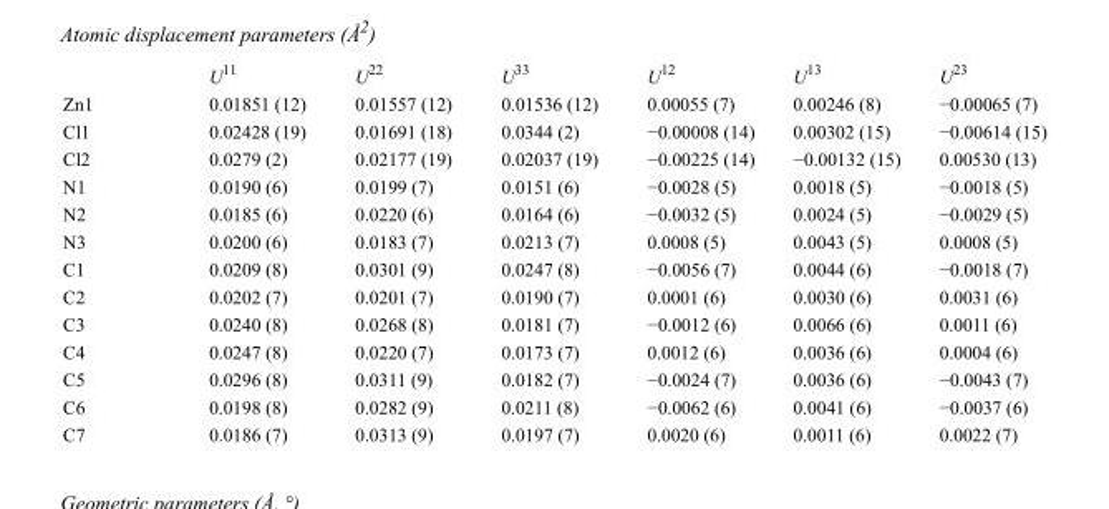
<table><thead><tr><td></td><td>U<sup>11</sup></td><td>U<sup>22</sup></td><td>U<sup>33</sup></td><td>U<sup>12</sup></td><td>U<sup>13</sup></td><td>U<sup>23</sup></td></tr></thead><tbody><tr><td>Zn1</td><td>0.01851 (12)</td><td>0.01557 (12)</td><td>0.01536 (12)</td><td>0.00055 (7)</td><td>0.00246 (8)</td><td>−0.00065 (7)</td></tr><tr><td>Cl1</td><td>0.02428 (19)</td><td>0.01691 (18)</td><td>0.0344 (2)</td><td>−0.00008 (14)</td><td>0.00302 (15)</td><td>−0.00614 (15)</td></tr><tr><td>Cl2</td><td>0.0279 (2)</td><td>0.02177 (19)</td><td>0.02037 (19)</td><td>−0.00225 (14)</td><td>−0.00132 (15)</td><td>0.00530 (13)</td></tr><tr><td>N1</td><td>0.0190 (6)</td><td>0.0199 (7)</td><td>0.0151 (6)</td><td>−0.0028 (5)</td><td>0.0018 (5)</td><td>−0.0018 (5)</td></tr><tr><td>N2</td><td>0.0185 (6)</td><td>0.0220 (6)</td><td>0.0164 (6)</td><td>−0.0032 (5)</td><td>0.0024 (5)</td><td>−0.0029 (5)</td></tr><tr><td>N3</td><td>0.0200 (6)</td><td>0.0183 (7)</td><td>0.0213 (7)</td><td>0.0008 (5)</td><td>0.0043 (5)</td><td>0.0008 (5)</td></tr><tr><td>C1</td><td>0.0209 (8)</td><td>0.0301 (9)</td><td>0.0247 (8)</td><td>−0.0056 (7)</td><td>0.0044 (6)</td><td>−0.0018 (7)</td></tr><tr><td>C2</td><td>0.0202 (7)</td><td>0.0201 (7)</td><td>0.0190 (7)</td><td>0.0001 (6)</td><td>0.0030 (6)</td><td>0.0031 (6)</td></tr><tr><td>C3</td><td>0.0240 (8)</td><td>0.0268 (8)</td><td>0.0181 (7)</td><td>−0.0012 (6)</td><td>0.0066 (6)</td><td>0.0011 (6)</td></tr><tr><td>C4</td><td>0.0247 (8)</td><td>0.0220 (7)</td><td>0.0173 (7)</td><td>0.0012 (6)</td><td>0.0036 (6)</td><td>0.0004 (6)</td></tr><tr><td>C5</td><td>0.0296 (8)</td><td>0.0311 (9)</td><td>0.0182 (7)</td><td>−0.0024 (7)</td><td>0.0036 (6)</td><td>−0.0043 (7)</td></tr><tr><td>C6</td><td>0.0198 (8)</td><td>0.0282 (9)</td><td>0.0211 (8)</td><td>−0.0062 (6)</td><td>0.0041 (6)</td><td>−0.0037 (6)</td></tr><tr><td>C7</td><td>0.0186 (7)</td><td>0.0313 (9)</td><td>0.0197 (7)</td><td>0.0020 (6)</td><td>0.0011 (6)</td><td>0.0022 (7)</td></tr></tbody></table>